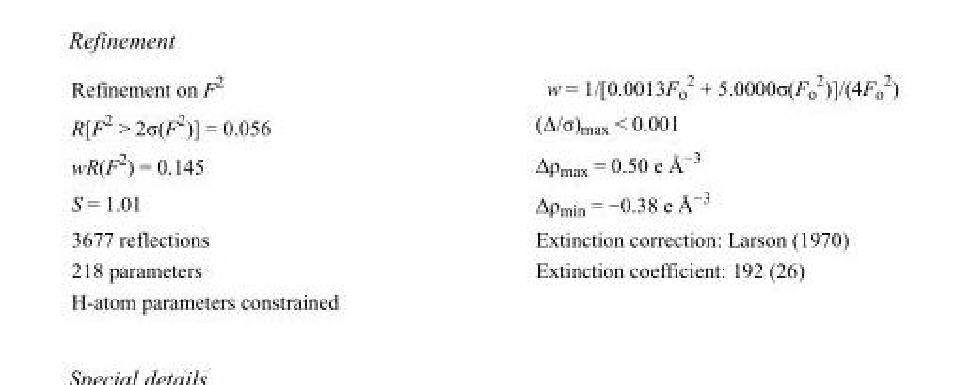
<table><tbody><tr><td>Refinement on F<sup>2</sup></td><td>w = 1/[0.0013F<sub>o</sub> <sup>2</sup> + 5.0000σ(F<sub>o</sub> <sup>2</sup>)]/(4F<sub>o</sub> <sup>2</sup>)</td></tr><tr><td>R[F<sup>2</sup> &gt; 2σ(F<sup>2</sup>)] = 0.056</td><td>(Δ/σ)<sub>max</sub> &lt; 0.001</td></tr><tr><td>wR(F<sup>2</sup>) = 0.145</td><td>Δρ<sub>max</sub> = 0.50 e Å<sup>−3</sup></td></tr><tr><td>S = 1.01</td><td>Δρ<sub>min</sub> = −0.38 e Å<sup>−3</sup></td></tr><tr><td>3677 reflections</td><td>Extinction correction: Larson (1970)</td></tr><tr><td>218 parameters</td><td>Extinction coefficient: 192 (26)</td></tr><tr><td>H-atom parameters constrained</td><td></td></tr></tbody></table>